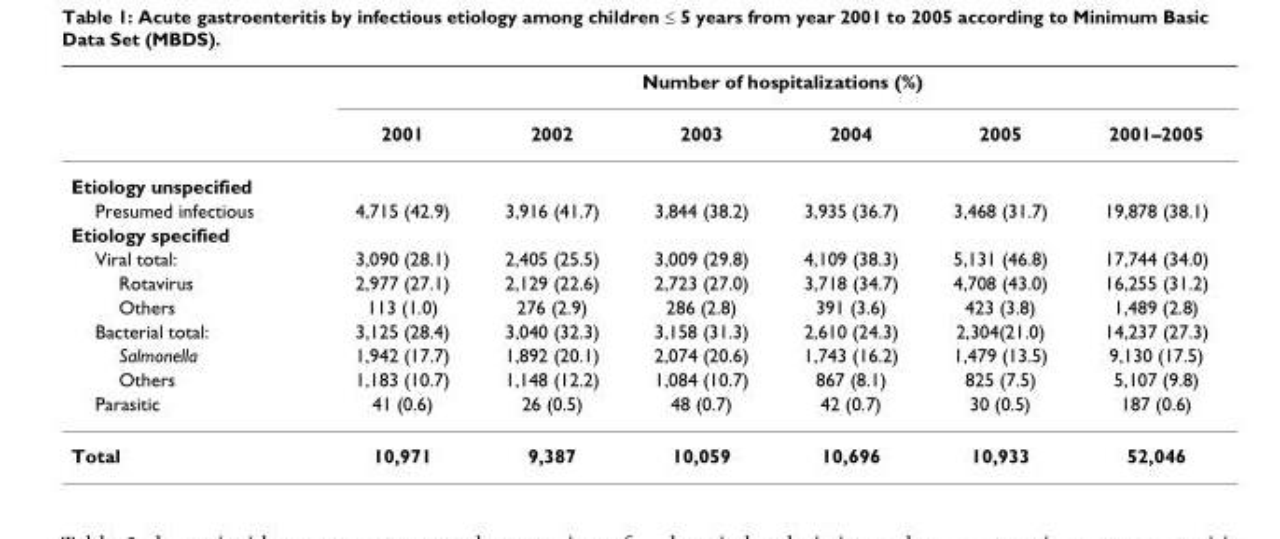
<table><thead><tr><td rowspan="2"></td><td colspan="6">Number of hospitalizations (%)</td></tr><tr><td>2001</td><td>2002</td><td>2003</td><td>2004</td><td>2005</td><td>2001–2005</td></tr></thead><tbody><tr><td colspan="7">Etiology unspecified</td></tr><tr><td>Presumed infectious</td><td>4,715 (42.9)</td><td>3,916 (41.7)</td><td>3,844 (38.2)</td><td>3,935 (36.7)</td><td>3,468 (31.7)</td><td>19,878 (38.1)</td></tr><tr><td colspan="7">Etiology specified</td></tr><tr><td>Viral total:</td><td>3,090 (28.1)</td><td>2,405 (25.5)</td><td>3,009 (29.8)</td><td>4,109 (38.3)</td><td>5,131 (46.8)</td><td>17,744 (34.0)</td></tr><tr><td>Rotavirus</td><td>2,977 (27.1)</td><td>2,129 (22.6)</td><td>2,723 (27.0)</td><td>3,718 (34.7)</td><td>4,708 (43.0)</td><td>16,255 (31.2)</td></tr><tr><td>Others</td><td>113 (1.0)</td><td>276 (2.9)</td><td>286 (2.8)</td><td>391 (3.6)</td><td>423 (3.8)</td><td>1,489 (2.8)</td></tr><tr><td>Bacterial total:</td><td>3,125 (28.4)</td><td>3,040 (32.3)</td><td>3,158 (31.3)</td><td>2,610 (24.3)</td><td>2,304(21.0)</td><td>14,237 (27.3)</td></tr><tr><td>Salmonella</td><td>1,942 (17.7)</td><td>1,892 (20.1)</td><td>2,074 (20.6)</td><td>1,743 (16.2)</td><td>1,479 (13.5)</td><td>9,130 (17.5)</td></tr><tr><td>Others</td><td>1,183 (10.7)</td><td>1,148 (12.2)</td><td>1,084 (10.7)</td><td>867 (8.1)</td><td>825 (7.5)</td><td>5,107 (9.8)</td></tr><tr><td>Parasitic</td><td>41 (0.6)</td><td>26 (0.5)</td><td>48 (0.7)</td><td>42 (0.7)</td><td>30 (0.5)</td><td>187 (0.6)</td></tr><tr><td>Total</td><td>10,971</td><td>9,387</td><td>10,059</td><td>10,696</td><td>10,933</td><td>52,046</td></tr></tbody></table>